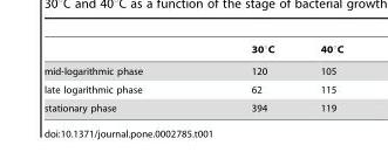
<table><thead><tr><td></td><td>30°C</td><td>40°C</td></tr></thead><tbody><tr><td>mid-logarithmic phase</td><td>120</td><td>105</td></tr><tr><td>late logarithmic phase</td><td>62</td><td>115</td></tr><tr><td>stationary phase</td><td>394</td><td>119</td></tr></tbody></table>